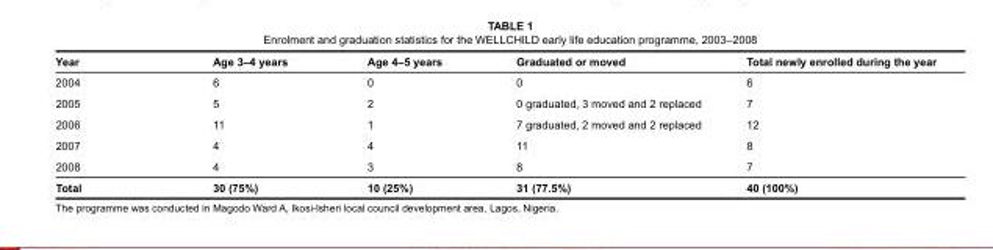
<table><thead><tr><td>Year</td><td>age 3–4 years</td><td>age 4–5 years</td><td>Graduated or moved</td><td>Total newly enrolled during the year</td></tr></thead><tbody><tr><td>2004</td><td>6</td><td>0</td><td>0</td><td>6</td></tr><tr><td>2005</td><td>5</td><td>2</td><td>0 graduated, 3 moved and 2 replaced</td><td>7</td></tr><tr><td>2006</td><td>11</td><td>1</td><td>7 graduated, 2 moved and 2 replaced</td><td>12</td></tr><tr><td>2007</td><td>4</td><td>4</td><td>11</td><td>8</td></tr><tr><td>2008</td><td>4</td><td>3</td><td>8</td><td>7</td></tr><tr><td>Total</td><td>30 (75%)</td><td>10 (25%)</td><td>31 (77.5%)</td><td>40 (100%)</td></tr></tbody></table>